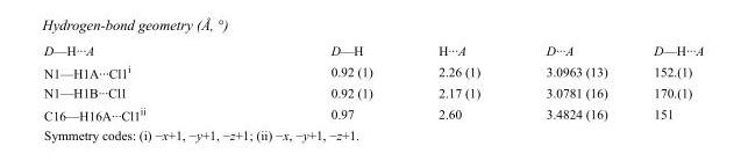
<table><tbody><tr><td>D—H···A</td><td>D—H</td><td>H···A</td><td>D···A</td><td>D—H···A</td></tr><tr><td>N1—H1A···Cl1<sup>i</sup></td><td>0.92 (1)</td><td>2.26 (1)</td><td>3.0963 (13)</td><td>152.(1)</td></tr><tr><td>N1—H1B···Cl1</td><td>0.92 (1)</td><td>2.17 (1)</td><td>3.0781 (16)</td><td>170.(1)</td></tr><tr><td>C16—H16A···Cl1<sup>ii</sup></td><td>0.97</td><td>2.60</td><td>3.4824 (16)</td><td>151</td></tr></tbody></table>